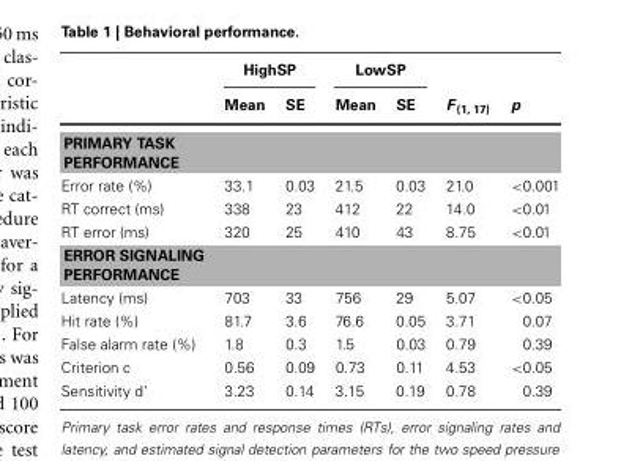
<table><thead><tr><td rowspan="2"></td><td colspan="2">HighSP</td><td colspan="2">LowSP</td><td rowspan="2">F <sub>(1, 17)</sub></td><td rowspan="2">p</td></tr><tr><td>Mean</td><td>SE</td><td>Mean</td><td>SE</td></tr></thead><tbody><tr><td colspan="7">PRIMARY TASK PERFORMANCE</td></tr><tr><td>Error rate (%)</td><td>33.1</td><td>0.03</td><td>21.5</td><td>0.03</td><td>21.0</td><td>&lt;0.001</td></tr><tr><td>RT correct (ms)</td><td>338</td><td>23</td><td>412</td><td>22</td><td>14.0</td><td>&lt;0.01</td></tr><tr><td>RT error (ms)</td><td>320</td><td>25</td><td>410</td><td>43</td><td>8.75</td><td>&lt;0.01</td></tr><tr><td colspan="7">ERROR SIGNALING PERFORMANCE</td></tr><tr><td>Latency (ms)</td><td>703</td><td>33</td><td>756</td><td>29</td><td>5.07</td><td>&lt;0.05</td></tr><tr><td>Hit rate (%)</td><td>81.7</td><td>3.6</td><td>76.6</td><td>0.05</td><td>3.71</td><td>0.07</td></tr><tr><td>False alarm rate (%)</td><td>1.8</td><td>0.3</td><td>1.5</td><td>0.03</td><td>0.79</td><td>0.39</td></tr><tr><td>Criterion c</td><td>0.56</td><td>0.09</td><td>0.73</td><td>0.11</td><td>4.53</td><td>&lt;0.05</td></tr><tr><td>Sensitivity d’</td><td>3.23</td><td>0.14</td><td>3.15</td><td>0.19</td><td>0.78</td><td>0.39</td></tr></tbody></table>